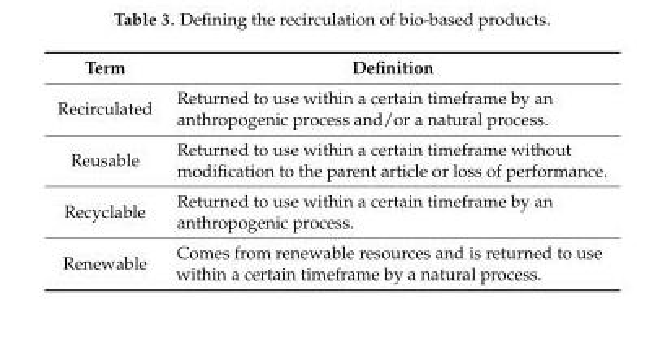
<table><thead><tr><td>Term</td><td>Definition</td></tr></thead><tbody><tr><td>Recirculated</td><td>Returned to use within a certain timeframe by an anthropogenic process and/or a natural process.</td></tr><tr><td>Reusable</td><td>Returned to use within a certain timeframe without modification to the parent article or loss of performance.</td></tr><tr><td>Recyclable</td><td>Returned to use within a certain timeframe by an anthropogenic process.</td></tr><tr><td>Renewable</td><td>Comes from renewable resources and is returned to use within a certain timeframe by a natural process.</td></tr></tbody></table>